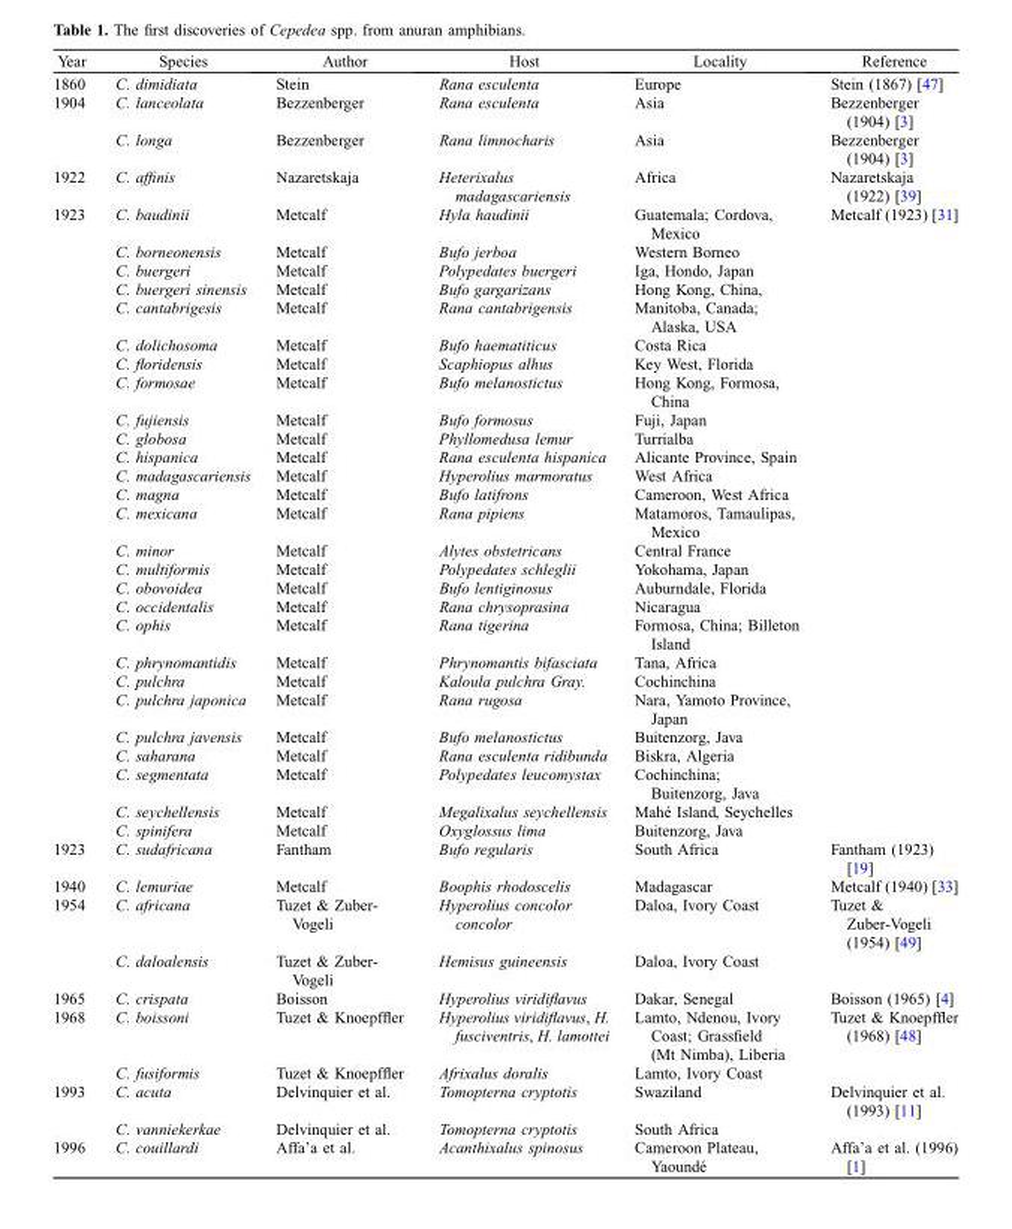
<table><thead><tr><td>Year</td><td>Species</td><td>Author</td><td>Host</td><td>Locality</td><td>Reference</td></tr></thead><tbody><tr><td>1860</td><td>C. dimidiata</td><td>Stein</td><td>Rana esculenta</td><td>Europe</td><td>Stein (1867) [47]</td></tr><tr><td rowspan="2">1904</td><td>C. lanceolata</td><td>Bezzenberger</td><td>Rana esculenta</td><td>Asia</td><td>Bezzenberger (1904) [3]</td></tr><tr><td>C. longa</td><td>Bezzenberger</td><td>Rana limnocharis</td><td>Asia</td><td>Bezzenberger (1904) [3]</td></tr><tr><td>1922</td><td>C. affinis</td><td>Nazaretskaja</td><td>Heterixalus madagascariensis</td><td>Africa</td><td>Nazaretskaja (1922) [39]</td></tr><tr><td rowspan="27">1923</td><td>C. baudinii</td><td>Metcalf</td><td>Hyla haudinii</td><td>Guatemala; Cordova, Mexico</td><td>Metcalf (1923) [31]</td></tr><tr><td>C. borneonensis</td><td>Metcalf</td><td>Bufo jerboa</td><td>Western Borneo</td><td></td></tr><tr><td>C. buergeri</td><td>Metcalf</td><td>Polypedates buergeri</td><td>Iga, Hondo, Japan</td><td></td></tr><tr><td>C. buergeri sinensis</td><td>Metcalf</td><td>Bufo gargarizans</td><td>Hong Kong, China,</td><td></td></tr><tr><td>C. cantabrigesis</td><td>Metcalf</td><td>Rana cantabrigensis</td><td>Manitoba, Canada; Alaska, USA</td><td></td></tr><tr><td>C. dolichosoma</td><td>Metcalf</td><td>Bufo haematiticus</td><td>Costa Rica</td><td></td></tr><tr><td>C. floridensis</td><td>Metcalf</td><td>Scaphiopus alhus</td><td>Key West, Florida</td><td></td></tr><tr><td>C. formosae</td><td>Metcalf</td><td>Bufo melanostictus</td><td>Hong Kong, Formosa, China</td><td></td></tr><tr><td>C. fujiensis</td><td>Metcalf</td><td>Bufo formosus</td><td>Fuji, Japan</td><td></td></tr><tr><td>C. globosa</td><td>Metcalf</td><td>Phyllomedusa lemur</td><td>Turrialba</td><td></td></tr><tr><td>C. hispanica</td><td>Metcalf</td><td>Rana esculenta hispanica</td><td>Alicante Province, Spain</td><td></td></tr><tr><td>C. madagascariensis</td><td>Metcalf</td><td>Hyperolius marmoratus</td><td>West Africa</td><td></td></tr><tr><td>C. magna</td><td>Metcalf</td><td>Bufo latifrons</td><td>Cameroon, West Africa</td><td></td></tr><tr><td>C. mexicana</td><td>Metcalf</td><td>Rana pipiens</td><td>Matamoros, Tamaulipas, Mexico</td><td></td></tr><tr><td>C. minor</td><td>Metcalf</td><td>Alytes obstetricans</td><td>Central France</td><td></td></tr><tr><td>C. multiformis</td><td>Metcalf</td><td>Polypedates schleglii</td><td>Yokohama, Japan</td><td></td></tr><tr><td>C. obovoidea</td><td>Metcalf</td><td>Bufo lentiginosus</td><td>Auburndale, Florida</td><td></td></tr><tr><td>C. occidentalis</td><td>Metcalf</td><td>Rana chrysoprasina</td><td>Nicaragua</td><td></td></tr><tr><td>C. ophis</td><td>Metcalf</td><td>Rana tigerina</td><td>Formosa, China; Billeton Island</td><td></td></tr><tr><td>C. phrynomantidis</td><td>Metcalf</td><td>Phrynomantis bifasciata</td><td>Tana, Africa</td><td></td></tr><tr><td>C. pulchra</td><td>Metcalf</td><td>Kaloula pulchra Gray.</td><td>Cochinchina</td><td></td></tr><tr><td>C. pulchra japonica</td><td>Metcalf</td><td>Rana rugosa</td><td>Nara, Yamoto Province, Japan</td><td></td></tr><tr><td>C. pulchra javensis</td><td>Metcalf</td><td>Bufo melanostictus</td><td>Buitenzorg, Java</td><td></td></tr><tr><td>C. saharana</td><td>Metcalf</td><td>Rana esculenta ridibunda</td><td>Biskra, Algeria</td><td></td></tr><tr><td>C. segmentata</td><td>Metcalf</td><td>Polypedates leucomystax</td><td>Cochinchina; Buitenzorg, Java</td><td></td></tr><tr><td>C. seychellensis</td><td>Metcalf</td><td>Megalixalus seychellensis</td><td>Mahé Island, Seychelles</td><td></td></tr><tr><td>C. spinifera</td><td>Metcalf</td><td>Oxyglossus lima</td><td>Buitenzorg, Java</td><td></td></tr><tr><td>1923</td><td>C. sudafricana</td><td>Fantham</td><td>Bufo regularis</td><td>South Africa</td><td>Fantham (1923) [19]</td></tr><tr><td>1940</td><td>C. lemuriae</td><td>Metcalf</td><td>Boophis rhodoscelis</td><td>Madagascar</td><td>Metcalf (1940) [33]</td></tr><tr><td rowspan="2">1954</td><td>C. africana</td><td>Tuzet &amp; Zuber- Vogeli</td><td>Hyperolius concolor concolor</td><td>Daloa, Ivory Coast</td><td>Tuzet &amp; Zuber-Vogeli (1954) [49]</td></tr><tr><td>C. daloalensis</td><td>Tuzet &amp; Zuber- Vogeli</td><td>Hemisus guineensis</td><td>Daloa, Ivory Coast</td><td></td></tr><tr><td>1965</td><td>C. crispata</td><td>Boisson</td><td>Hyperolius viridiflavus</td><td>Dakar, Senegal</td><td>Boisson (1965) [4]</td></tr><tr><td rowspan="2">1968</td><td>C. boissoni</td><td>Tuzet &amp; Knoepffler</td><td>Hyperolius viridiflavus, H. fusciventris, H. lamottei</td><td>Lamto, Ndenou, Ivory Coast; Grassfield (Mt Nimba), Liberia</td><td>Tuzet &amp; Knoepffler (1968) [48]</td></tr><tr><td>C. fusiformis</td><td>Tuzet &amp; Knoepffler</td><td>Afrixalus doralis</td><td>Lamto, Ivory Coast</td><td></td></tr><tr><td rowspan="2">1993</td><td>C. acuta</td><td>Delvinquier et al.</td><td>Tomopterna cryptotis</td><td>Swaziland</td><td>Delvinquier et al. (1993) [11]</td></tr><tr><td>C. vanniekerkae</td><td>Delvinquier et al.</td><td>Tomopterna cryptotis</td><td>South Africa</td><td></td></tr><tr><td>1996</td><td>C. couillardi</td><td>Affa’a et al.</td><td>Acanthixalus spinosus</td><td>Cameroon Plateau, Yaoundé</td><td>Affa’a et al. (1996) [1]</td></tr></tbody></table>